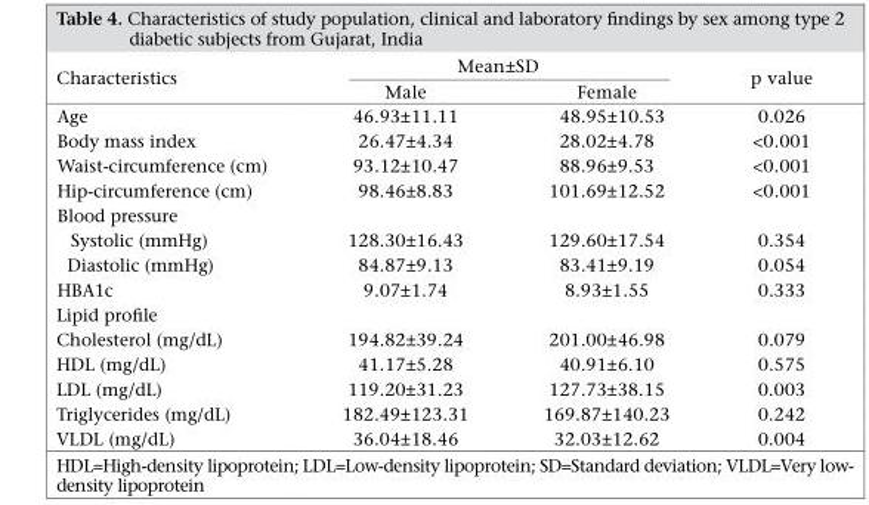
<table><thead><tr><td rowspan="2">Characteristics</td><td colspan="2">Mean±SD</td><td rowspan="2">p value</td></tr><tr><td>Male</td><td>Female</td></tr></thead><tbody><tr><td>Age</td><td>46.93±11.11</td><td>48.95±10.53</td><td>0.026</td></tr><tr><td>Body mass index</td><td>26.47±4.34</td><td>28.02±4.78</td><td>&lt;0.001</td></tr><tr><td>Waist-circumference (cm)</td><td>93.12±10.47</td><td>88.96±9.53</td><td>&lt;0.001</td></tr><tr><td>Hip-circumference (cm)</td><td>98.46±8.83</td><td>101.69±12.52</td><td>&lt;0.001</td></tr><tr><td colspan="4">Blood pressure</td></tr><tr><td>Systolic (mmHg)</td><td>128.30±16.43</td><td>129.60±17.54</td><td>0.354</td></tr><tr><td>Diastolic (mmHg)</td><td>84.87±9.13</td><td>83.41±9.19</td><td>0.054</td></tr><tr><td>HBA1c</td><td>9.07±1.74</td><td>8.93±1.55</td><td>0.333</td></tr><tr><td colspan="4">Lipid profile</td></tr><tr><td>Cholesterol (mg/dL)</td><td>194.82±39.24</td><td>201.00±46.98</td><td>0.079</td></tr><tr><td>HDL (mg/dL)</td><td>41.17±5.28</td><td>40.91±6.10</td><td>0.575</td></tr><tr><td>LDL (mg/dL)</td><td>119.20±31.23</td><td>127.73±38.15</td><td>0.003</td></tr><tr><td>Triglycerides (mg/dL)</td><td>182.49±123.31</td><td>169.87±140.23</td><td>0.242</td></tr><tr><td>VLDL (mg/dL)</td><td>36.04±18.46</td><td>32.03±12.62</td><td>0.004</td></tr></tbody></table>